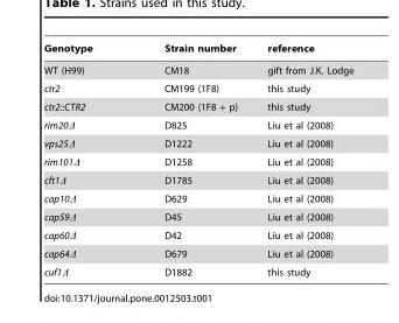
<table><thead><tr><td>Genotype</td><td>Strain number</td><td>reference</td></tr></thead><tbody><tr><td>WT (H99)</td><td>CM18</td><td>gift from J.K. Lodge</td></tr><tr><td>ctr2</td><td>CM199 (1F8)</td><td>this study</td></tr><tr><td>ctr2::CTR2</td><td>CM200 (1F8 + p)</td><td>this study</td></tr><tr><td>rim20Δ</td><td>D825</td><td>Liu et al (2008)</td></tr><tr><td>vps25Δ</td><td>D1222</td><td>Liu et al (2008)</td></tr><tr><td>rim101Δ</td><td>D1258</td><td>Liu et al (2008)</td></tr><tr><td>cft1Δ</td><td>D1785</td><td>Liu et al (2008)</td></tr><tr><td>cap10Δ</td><td>D629</td><td>Liu et al (2008)</td></tr><tr><td>cap59Δ</td><td>D45</td><td>Liu et al (2008)</td></tr><tr><td>cap60Δ</td><td>D42</td><td>Liu et al (2008)</td></tr><tr><td>cap64Δ</td><td>D679</td><td>Liu et al (2008)</td></tr><tr><td>cuf1Δ</td><td>D1882</td><td>this study</td></tr></tbody></table>